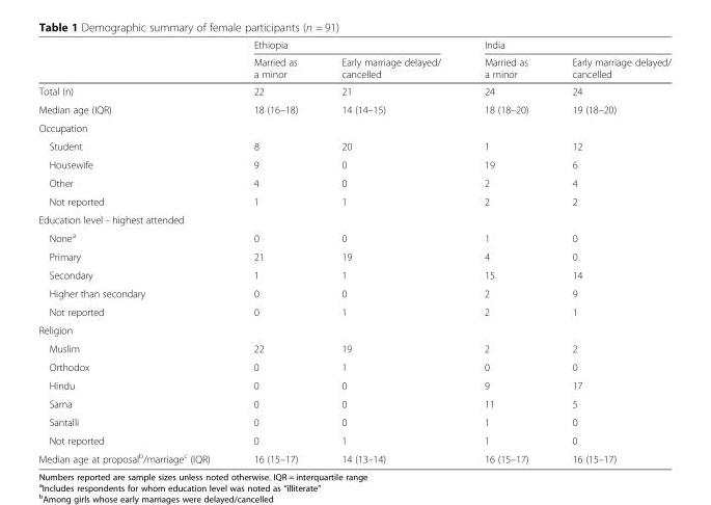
<table><thead><tr><td rowspan="2"></td><td colspan="2">Ethiopia</td><td colspan="2">India</td></tr><tr><td>Married as a minor</td><td>Early marriage delayed/ cancelled</td><td>Married as a minor</td><td>Early marriage delayed/ cancelled</td></tr></thead><tbody><tr><td>Total (n)</td><td>22</td><td>21</td><td>24</td><td>24</td></tr><tr><td>Median age (IQR)</td><td>18 (16–18)</td><td>14 (14–15)</td><td>18 (18–20)</td><td>19 (18–20)</td></tr><tr><td colspan="5">Occupation</td></tr><tr><td>Student</td><td>8</td><td>20</td><td>1</td><td>12</td></tr><tr><td>Housewife</td><td>9</td><td>0</td><td>19</td><td>6</td></tr><tr><td>Other</td><td>4</td><td>0</td><td>2</td><td>4</td></tr><tr><td>Not reported</td><td>1</td><td>1</td><td>2</td><td>2</td></tr><tr><td colspan="5">Education level - highest attended</td></tr><tr><td>None<sup>a</sup></td><td>0</td><td>0</td><td>1</td><td>0</td></tr><tr><td>Primary</td><td>21</td><td>19</td><td>4</td><td>0</td></tr><tr><td>Secondary</td><td>1</td><td>1</td><td>15</td><td>14</td></tr><tr><td>Higher than secondary</td><td>0</td><td>0</td><td>2</td><td>9</td></tr><tr><td>Not reported</td><td>0</td><td>1</td><td>2</td><td>1</td></tr><tr><td colspan="5">Religion</td></tr><tr><td>Muslim</td><td>22</td><td>19</td><td>2</td><td>2</td></tr><tr><td>Orthodox</td><td>0</td><td>1</td><td>0</td><td>0</td></tr><tr><td>Hindu</td><td>0</td><td>0</td><td>9</td><td>17</td></tr><tr><td>Sarna</td><td>0</td><td>0</td><td>11</td><td>5</td></tr><tr><td>Santalli</td><td>0</td><td>0</td><td>1</td><td>0</td></tr><tr><td>Not reported</td><td>0</td><td>1</td><td>1</td><td>0</td></tr><tr><td>Median age at proposal<sup>b</sup>/marriage<sup>c</sup> (IQR)</td><td>16 (15–17)</td><td>14 (13–14)</td><td>16 (15–17)</td><td>16 (15–17)</td></tr></tbody></table>